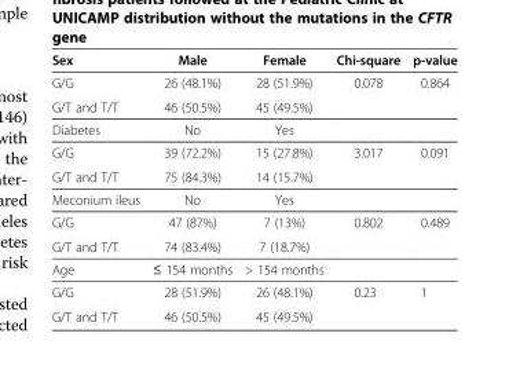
<table><thead><tr><td>Sex</td><td>Male</td><td>Female</td><td>Chi-square</td><td>p-value</td></tr></thead><tbody><tr><td>G/G</td><td>26 (48.1%)</td><td>28 (51.9%)</td><td>0.078</td><td>0.864</td></tr><tr><td>G/T and T/T</td><td>46 (50.5%)</td><td>45 (49.5%)</td><td></td><td></td></tr><tr><td>Diabetes</td><td>No</td><td>Yes</td><td></td><td></td></tr><tr><td>G/G</td><td>39 (72.2%)</td><td>15 (27.8%)</td><td>3.017</td><td>0.091</td></tr><tr><td>G/T and T/T</td><td>75 (84.3%)</td><td>14 (15.7%)</td><td></td><td></td></tr><tr><td>Meconium ileus</td><td>No</td><td>Yes</td><td></td><td></td></tr><tr><td>G/G</td><td>47 (87%)</td><td>7 (13%)</td><td>0.802</td><td>0.489</td></tr><tr><td>G/T and T/T</td><td>74 (83.4%)</td><td>7 (18.7%)</td><td></td><td></td></tr><tr><td>Age</td><td>≤ 154 months</td><td>&gt; 154 months</td><td></td><td></td></tr><tr><td>G/G</td><td>28 (51.9%)</td><td>26 (48.1%)</td><td>0.23</td><td>1</td></tr><tr><td>G/T and T/T</td><td>46 (50.5%)</td><td>45 (49.5%)</td><td></td><td></td></tr></tbody></table>